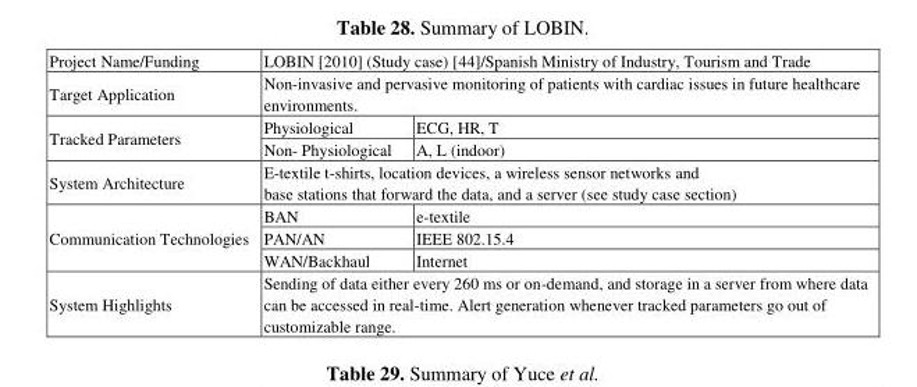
<table><tbody><tr><td>Project Name/Funding</td><td colspan="2">LOBIN [2010] (Study case) [44]/Spanish Ministry of Industry, Tourism and Trade</td></tr><tr><td>Target Application</td><td colspan="2">Non-invasive and pervasive monitoring of patients with cardiac issues in future healthcare environments.</td></tr><tr><td rowspan="2">Tracked Parameters</td><td>Physiological</td><td>ECG, HR, T</td></tr><tr><td>Non- Physiological</td><td>A, L (indoor)</td></tr><tr><td>System Architecture</td><td colspan="2">E-textile t-shirts, location devices, a wireless sensor networks and base stations that forward the data, and a server (see study case section)</td></tr><tr><td rowspan="3">Communication Technologies</td><td>BAN</td><td>e-textile</td></tr><tr><td>PAN/AN</td><td>IEEE 802.15.4</td></tr><tr><td>WAN/Backhaul</td><td>Internet</td></tr><tr><td>System Highlights</td><td colspan="2">Sending of data either every 260 ms or on-demand, and storage in a server from where data can be accessed in real-time. Alert generation whenever tracked parameters go out of customizable range.</td></tr></tbody></table>